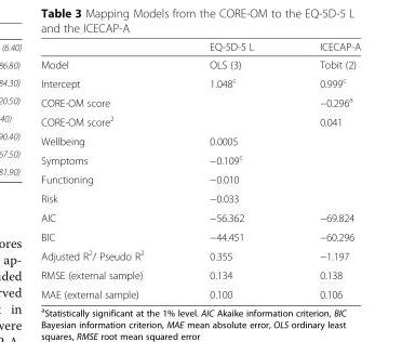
<table><thead><tr><td></td><td>EQ-5D-5 L</td><td>ICECAP-A</td></tr></thead><tbody><tr><td>Model</td><td>OLS (3)</td><td>Tobit (2)</td></tr><tr><td>Intercept</td><td>1.048<sup>c</sup></td><td>0.999<sup>c</sup></td></tr><tr><td>CORE-OM score</td><td></td><td>−0.296<sup>a</sup></td></tr><tr><td>CORE-OM score<sup>2</sup></td><td></td><td>0.041</td></tr><tr><td>Wellbeing</td><td>0.0005</td><td></td></tr><tr><td>Symptoms</td><td>−0.109<sup>c</sup></td><td></td></tr><tr><td>Functioning</td><td>−0.010</td><td></td></tr><tr><td>Risk</td><td>−0.033</td><td></td></tr><tr><td>AIC</td><td>−56.362</td><td>−69.824</td></tr><tr><td>BIC</td><td>−44.451</td><td>−60.296</td></tr><tr><td>Adjusted R<sup>2</sup>/ Pseudo R<sup>2</sup></td><td>0.355</td><td>−1.197</td></tr><tr><td>RMSE (external sample)</td><td>0.134</td><td>0.138</td></tr><tr><td>MAE (external sample)</td><td>0.100</td><td>0.106</td></tr></tbody></table>